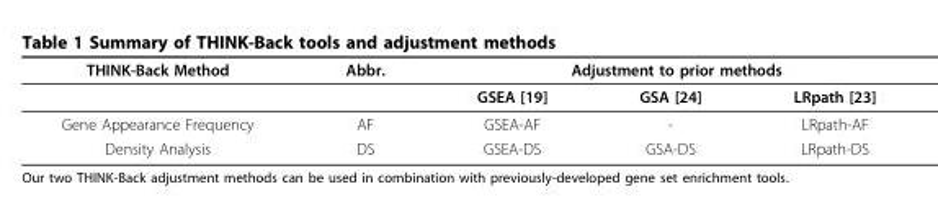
<table><thead><tr><td rowspan="2">THINK-Back Method</td><td rowspan="2">Abbr.</td><td colspan="3">Adjustment to prior methods</td></tr><tr><td>GSEA [19]</td><td>GSA [24]</td><td>LRpath [23]</td></tr></thead><tbody><tr><td>Gene Appearance Frequency</td><td>AF</td><td>GSEA-AF</td><td>-</td><td>LRpath-AF</td></tr><tr><td>Density Analysis</td><td>DS</td><td>GSEA-DS</td><td>GSA-DS</td><td>LRpath-DS</td></tr></tbody></table>